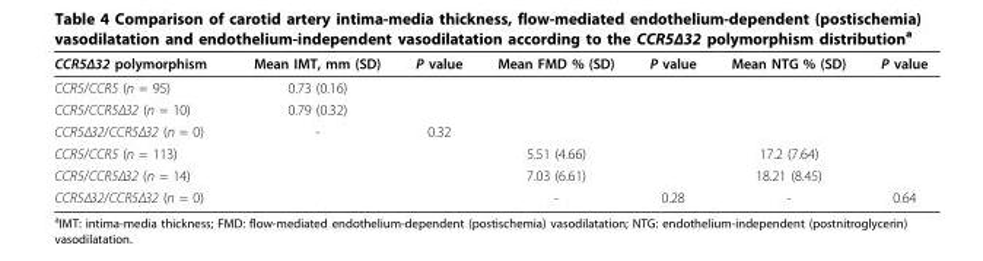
<table><thead><tr><td>CCR5Δ32 polymorphism</td><td>Mean IMT, mm (SD)</td><td>P value</td><td>Mean FMD % (SD)</td><td>P value</td><td>Mean NTG % (SD)</td><td>P value</td></tr></thead><tbody><tr><td>CCR5/CCR5 (n = 95)</td><td>0.73 (0.16)</td><td></td><td></td><td></td><td></td><td></td></tr><tr><td>CCR5/CCR5Δ32 (n = 10)</td><td>0.79 (0.32)</td><td></td><td></td><td></td><td></td><td></td></tr><tr><td>CCR5Δ32/CCR5Δ32 (n = 0)</td><td>-</td><td>0.32</td><td></td><td></td><td></td><td></td></tr><tr><td>CCR5/CCR5 (n = 113)</td><td></td><td></td><td>5.51 (4.66)</td><td></td><td>17.2 (7.64)</td><td></td></tr><tr><td>CCR5/CCR5Δ32 (n = 14)</td><td></td><td></td><td>7.03 (6.61)</td><td></td><td>18.21 (8.45)</td><td></td></tr><tr><td>CCR5Δ32/CCR5Δ32 (n = 0)</td><td></td><td></td><td>-</td><td>0.28</td><td>-</td><td>0.64</td></tr></tbody></table>